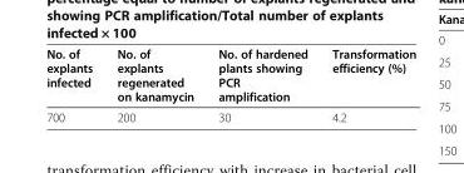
<table><thead><tr><td>No. of explants infected</td><td>No. of explants regenerated on kanamycin</td><td>No. of hardened plants showing PCR amplification</td><td>Transformation efficiency (%)</td></tr></thead><tbody><tr><td>700</td><td>200</td><td>30</td><td>4.2</td></tr></tbody></table>